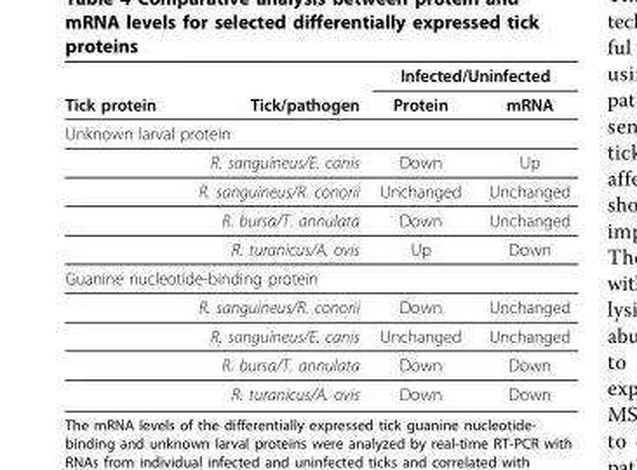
<table><thead><tr><td rowspan="2">Tick protein</td><td rowspan="2">Tick/pathogen</td><td colspan="2">Infected/Uninfected</td></tr><tr><td>Protein</td><td>mRNA</td></tr></thead><tbody><tr><td colspan="4">Unknown larval protein</td></tr><tr><td></td><td>R. sanguineus/E. canis</td><td>Down</td><td>Up</td></tr><tr><td></td><td>R. sanguineus/R. conorii</td><td>Unchanged</td><td>Unchanged</td></tr><tr><td></td><td>R. bursa/T. annulata</td><td>Down</td><td>Unchanged</td></tr><tr><td></td><td>R. turanicus/A. ovis</td><td>Up</td><td>Down</td></tr><tr><td colspan="4">Guanine nucleotide-binding protein</td></tr><tr><td></td><td>R. sanguineus/R. conorii</td><td>Down</td><td>Unchanged</td></tr><tr><td></td><td>R. sanguineus/E. canis</td><td>Unchanged</td><td>Unchanged</td></tr><tr><td></td><td>R. bursa/T. annulata</td><td>Down</td><td>Down</td></tr><tr><td></td><td>R. turanicus/A. ovis</td><td>Down</td><td>Down</td></tr></tbody></table>